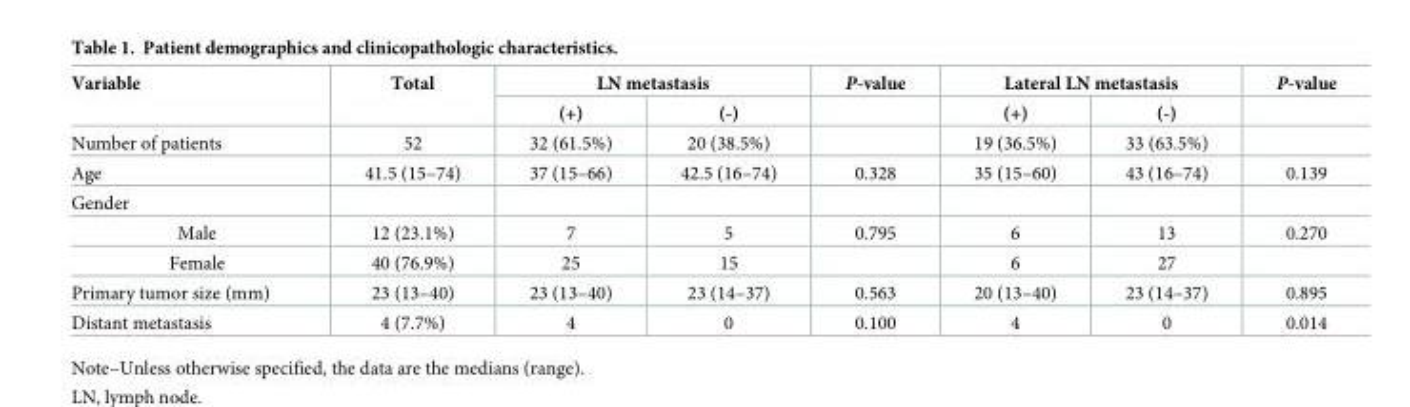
<table><thead><tr><td rowspan="2">Variable</td><td rowspan="2">Total</td><td colspan="2">LN metastasis</td><td rowspan="2">P-value</td><td colspan="2">Lateral LN metastasis</td><td rowspan="2">P-value</td></tr><tr><td>(+)</td><td>(-)</td><td>(+)</td><td>(-)</td></tr></thead><tbody><tr><td>Number of patients</td><td>52</td><td>32 (61.5%)</td><td>20 (38.5%)</td><td></td><td>19 (36.5%)</td><td>33 (63.5%)</td><td></td></tr><tr><td>Age</td><td>41.5 (15–74)</td><td>37 (15–66)</td><td>42.5 (16–74)</td><td>0.328</td><td>35 (15–60)</td><td>43 (16–74)</td><td>0.139</td></tr><tr><td colspan="8">Gender</td></tr><tr><td>Male</td><td>12 (23.1%)</td><td>7</td><td>5</td><td>0.795</td><td>6</td><td>13</td><td>0.270</td></tr><tr><td>Female</td><td>40 (76.9%)</td><td>25</td><td>15</td><td></td><td>6</td><td>27</td><td></td></tr><tr><td>Primary tumor size (mm)</td><td>23 (13–40)</td><td>23 (13–40)</td><td>23 (14–37)</td><td>0.563</td><td>20 (13–40)</td><td>23 (14–37)</td><td>0.895</td></tr><tr><td>Distant metastasis</td><td>4 (7.7%)</td><td>4</td><td>0</td><td>0.100</td><td>4</td><td>0</td><td>0.014</td></tr></tbody></table>